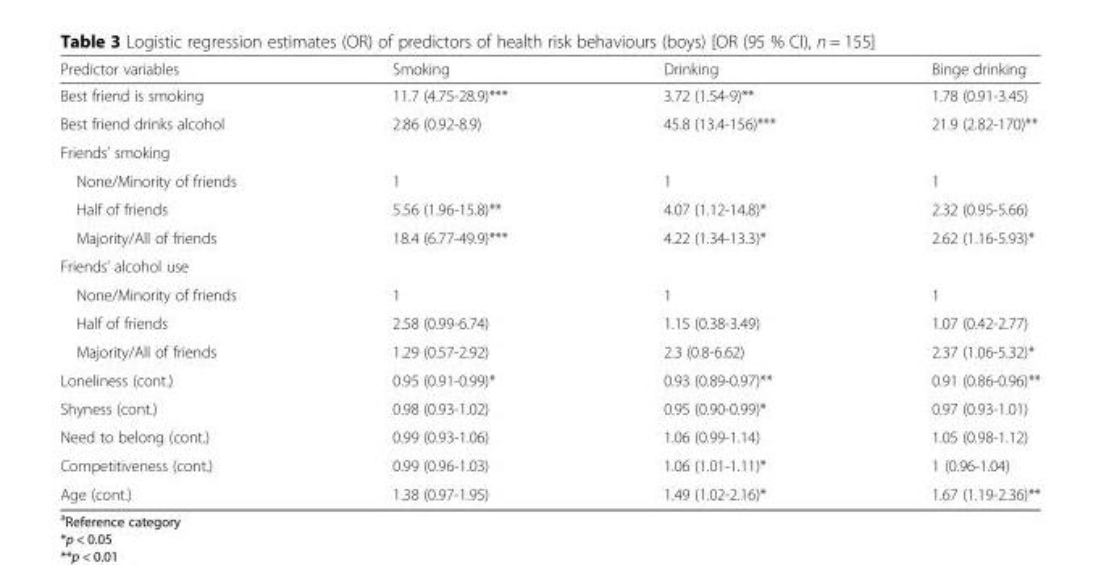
<table><thead><tr><td>Predictor variables</td><td>Smoking</td><td>Drinking</td><td>Binge drinking</td></tr></thead><tbody><tr><td>Best friend is smoking</td><td>11.7 (4.75-28.9)***</td><td>3.72 (1.54-9)**</td><td>1.78 (0.91-3.45)</td></tr><tr><td>Best friend drinks alcohol</td><td>2.86 (0.92-8.9)</td><td>45.8 (13.4-156)***</td><td>21.9 (2.82-170)**</td></tr><tr><td colspan="4">Friends’ smoking</td></tr><tr><td>None/Minority of friends</td><td>1</td><td>1</td><td>1</td></tr><tr><td>Half of friends</td><td>5.56 (1.96-15.8)**</td><td>4.07 (1.12-14.8)*</td><td>2.32 (0.95-5.66)</td></tr><tr><td>Majority/All of friends</td><td>18.4 (6.77-49.9)***</td><td>4.22 (1.34-13.3)*</td><td>2.62 (1.16-5.93)*</td></tr><tr><td colspan="4">Friends’ alcohol use</td></tr><tr><td>None/Minority of friends</td><td>1</td><td>1</td><td>1</td></tr><tr><td>Half of friends</td><td>2.58 (0.99-6.74)</td><td>1.15 (0.38-3.49)</td><td>1.07 (0.42-2.77)</td></tr><tr><td>Majority/All of friends</td><td>1.29 (0.57-2.92)</td><td>2.3 (0.8-6.62)</td><td>2.37 (1.06-5.32)*</td></tr><tr><td>Loneliness (cont.)</td><td>0.95 (0.91-0.99)*</td><td>0.93 (0.89-0.97)**</td><td>0.91 (0.86-0.96)**</td></tr><tr><td>Shyness (cont.)</td><td>0.98 (0.93-1.02)</td><td>0.95 (0.90-0.99)*</td><td>0.97 (0.93-1.01)</td></tr><tr><td>Need to belong (cont.)</td><td>0.99 (0.93-1.06)</td><td>1.06 (0.99-1.14)</td><td>1.05 (0.98-1.12)</td></tr><tr><td>Competitiveness (cont.)</td><td>0.99 (0.96-1.03)</td><td>1.06 (1.01-1.11)*</td><td>1 (0.96-1.04)</td></tr><tr><td>Age (cont.)</td><td>1.38 (0.97-1.95)</td><td>1.49 (1.02-2.16)*</td><td>1.67 (1.19-2.36)**</td></tr></tbody></table>